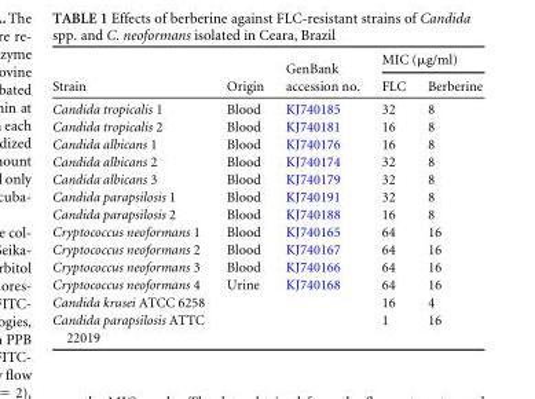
<table><thead><tr><td rowspan="2">Strain</td><td rowspan="2">Origin</td><td rowspan="2">GenBank accession no.</td><td colspan="2">MIC (μg/ml)</td></tr><tr><td>FLC</td><td>Berberine</td></tr></thead><tbody><tr><td>Candida tropicalis 1</td><td>Blood</td><td>KJ740185</td><td>32</td><td>8</td></tr><tr><td>Candida tropicalis 2</td><td>Blood</td><td>KJ740181</td><td>16</td><td>8</td></tr><tr><td>Candida albicans 1</td><td>Blood</td><td>KJ740176</td><td>16</td><td>8</td></tr><tr><td>Candida albicans 2</td><td>Blood</td><td>KJ740174</td><td>32</td><td>8</td></tr><tr><td>Candida albicans 3</td><td>Blood</td><td>KJ740179</td><td>32</td><td>8</td></tr><tr><td>Candida parapsilosis 1</td><td>Blood</td><td>KJ740191</td><td>32</td><td>8</td></tr><tr><td>Candida parapsilosis 2</td><td>Blood</td><td>KJ740188</td><td>16</td><td>8</td></tr><tr><td>Cryptococcus neoformans 1</td><td>Blood</td><td>KJ740165</td><td>64</td><td>16</td></tr><tr><td>Cryptococcus neoformans 2</td><td>Blood</td><td>KJ740167</td><td>64</td><td>16</td></tr><tr><td>Cryptococcus neoformans 3</td><td>Blood</td><td>KJ740166</td><td>64</td><td>16</td></tr><tr><td>Cryptococcus neoformans 4</td><td>Urine</td><td>KJ740168</td><td>64</td><td>16</td></tr><tr><td>Candida krusei ATCC 6258</td><td></td><td></td><td>16</td><td>4</td></tr><tr><td>Candida parapsilosis ATTC 22019</td><td></td><td></td><td>1</td><td>16</td></tr></tbody></table>